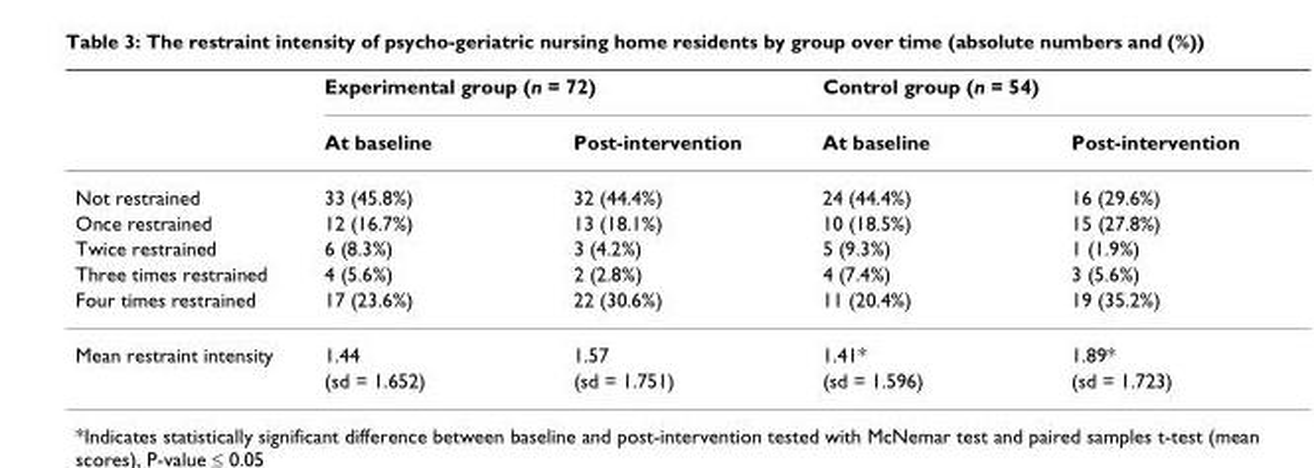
<table><thead><tr><td rowspan="2"></td><td colspan="2">Experimental group (n = 72)</td><td colspan="2">Control group (n = 54)</td></tr><tr><td>At baseline</td><td>Post-intervention</td><td>At baseline</td><td>Post-intervention</td></tr></thead><tbody><tr><td>Not restrained</td><td>33 (45.8%)</td><td>32 (44.4%)</td><td>24 (44.4%)</td><td>16 (29.6%)</td></tr><tr><td>Once restrained</td><td>12 (16.7%)</td><td>13 (18.1%)</td><td>10 (18.5%)</td><td>15 (27.8%)</td></tr><tr><td>Twice restrained</td><td>6 (8.3%)</td><td>3 (4.2%)</td><td>5 (9.3%)</td><td>1 (1.9%)</td></tr><tr><td>Three times restrained</td><td>4 (5.6%)</td><td>2 (2.8%)</td><td>4 (7.4%)</td><td>3 (5.6%)</td></tr><tr><td>Four times restrained</td><td>17 (23.6%)</td><td>22 (30.6%)</td><td>11 (20.4%)</td><td>19 (35.2%)</td></tr><tr><td rowspan="2">Mean restraint intensity</td><td>1.44</td><td>1.57</td><td>1.41*</td><td>1.89*</td></tr><tr><td>(sd = 1.652)</td><td>(sd = 1.751)</td><td>(sd = 1.596)</td><td>(sd = 1.723)</td></tr></tbody></table>